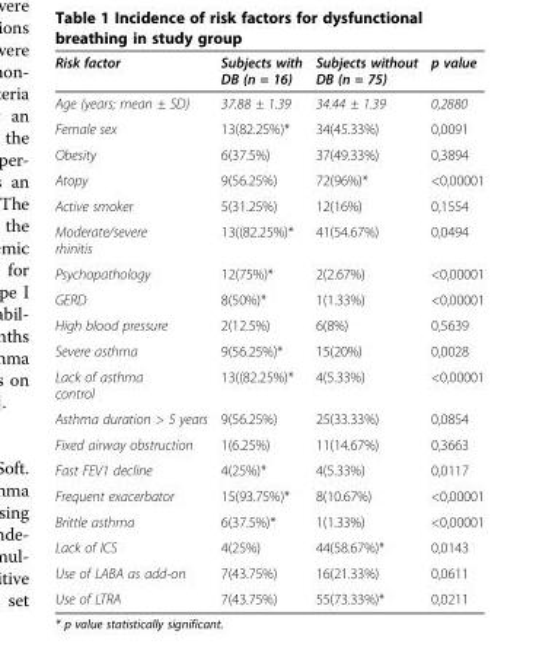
<table><thead><tr><td>Risk factor</td><td>Subjects with DB (n = 16)</td><td>Subjects without DB (n = 75)</td><td>p value</td></tr></thead><tbody><tr><td>Age (years; mean ± SD)</td><td>37.88 ± 1.39</td><td>34.44 ± 1.39</td><td>0,2880</td></tr><tr><td>Female sex</td><td>13(82.25%)*</td><td>34(45.33%)</td><td>0,0091</td></tr><tr><td>Obesity</td><td>6(37.5%)</td><td>37(49.33%)</td><td>0,3894</td></tr><tr><td>Atopy</td><td>9(56.25%)</td><td>72(96%)*</td><td>&lt;0,00001</td></tr><tr><td>Active smoker</td><td>5(31.25%)</td><td>12(16%)</td><td>0,1554</td></tr><tr><td>Moderate/severe rhinitis</td><td>13((82.25%)*</td><td>41(54.67%)</td><td>0,0494</td></tr><tr><td>Psychopathology</td><td>12(75%)*</td><td>2(2.67%)</td><td>&lt;0,00001</td></tr><tr><td>GERD</td><td>8(50%)*</td><td>1(1.33%)</td><td>&lt;0,00001</td></tr><tr><td>High blood pressure</td><td>2(12.5%)</td><td>6(8%)</td><td>0,5639</td></tr><tr><td>Severe asthma</td><td>9(56.25%)*</td><td>15(20%)</td><td>0,0028</td></tr><tr><td>Lack of asthma control</td><td>13((82.25%)*</td><td>4(5.33%)</td><td>&lt;0,00001</td></tr><tr><td>Asthma duration &gt; 5 years</td><td>9(56.25%)</td><td>25(33.33%)</td><td>0,0854</td></tr><tr><td>Fixed airway obstruction</td><td>1(6.25%)</td><td>11(14.67%)</td><td>0,3663</td></tr><tr><td>Fast FEV1 decline</td><td>4(25%)*</td><td>4(5.33%)</td><td>0,0117</td></tr><tr><td>Frequent exacerbator</td><td>15(93.75%)*</td><td>8(10.67%)</td><td>&lt;0,00001</td></tr><tr><td>Brittle asthma</td><td>6(37.5%)*</td><td>1(1.33%)</td><td>&lt;0,00001</td></tr><tr><td>Lack of ICS</td><td>4(25%)</td><td>44(58.67%)*</td><td>0,0143</td></tr><tr><td>Use of LABA as add-on</td><td>7(43.75%)</td><td>16(21.33%)</td><td>0,0611</td></tr><tr><td>Use of LTRA</td><td>7(43.75%)</td><td>55(73.33%)*</td><td>0,0211</td></tr></tbody></table>